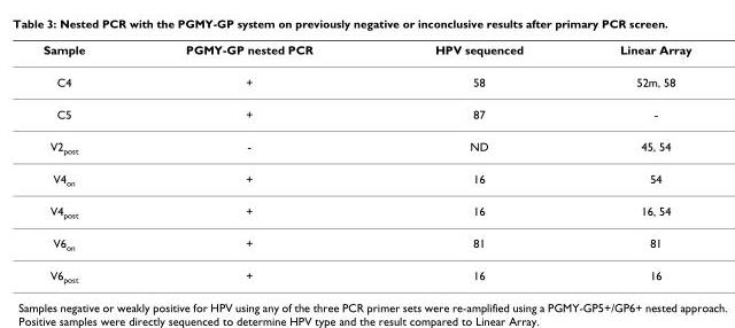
<table><thead><tr><td>Sample</td><td>PGMY-GP nested PCR</td><td>HPV sequenced</td><td>Linear Array</td></tr></thead><tbody><tr><td>C4</td><td>+</td><td>58</td><td>52m, 58</td></tr><tr><td>C5</td><td>+</td><td>87</td><td>-</td></tr><tr><td>V2<sub>post</sub></td><td>-</td><td>ND</td><td>45, 54</td></tr><tr><td>V4<sub>on</sub></td><td>+</td><td>16</td><td>54</td></tr><tr><td>V4<sub>post</sub></td><td>+</td><td>16</td><td>16, 54</td></tr><tr><td>V6<sub>on</sub></td><td>+</td><td>81</td><td>81</td></tr><tr><td>V6<sub>post</sub></td><td>+</td><td>16</td><td>16</td></tr></tbody></table>